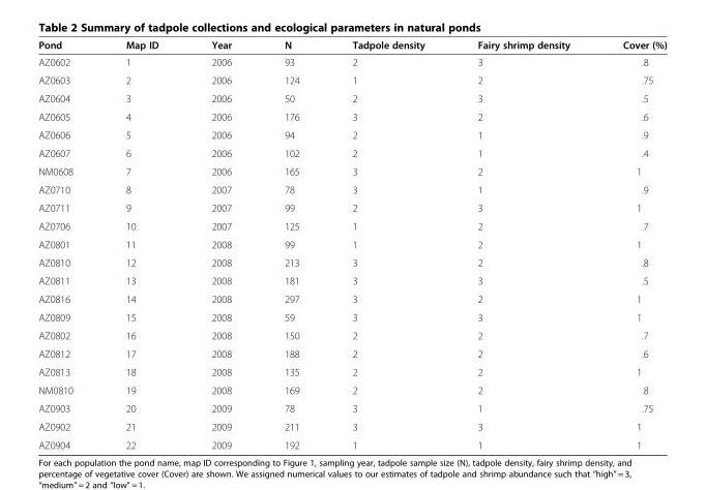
<table><thead><tr><td>Pond</td><td>Map ID</td><td>Year</td><td>N</td><td>Tadpole density</td><td>Fairy shrimp density</td><td>Cover (%)</td></tr></thead><tbody><tr><td>AZ0602</td><td>1</td><td>2006</td><td>93</td><td>2</td><td>3</td><td>.8</td></tr><tr><td>AZ0603</td><td>2</td><td>2006</td><td>124</td><td>1</td><td>2</td><td>.75</td></tr><tr><td>AZ0604</td><td>3</td><td>2006</td><td>50</td><td>2</td><td>3</td><td>.5</td></tr><tr><td>AZ0605</td><td>4</td><td>2006</td><td>176</td><td>3</td><td>2</td><td>.6</td></tr><tr><td>AZ0606</td><td>5</td><td>2006</td><td>94</td><td>2</td><td>1</td><td>.9</td></tr><tr><td>AZ0607</td><td>6</td><td>2006</td><td>102</td><td>2</td><td>1</td><td>.4</td></tr><tr><td>NM0608</td><td>7</td><td>2006</td><td>165</td><td>3</td><td>2</td><td>1</td></tr><tr><td>AZ0710</td><td>8</td><td>2007</td><td>78</td><td>3</td><td>1</td><td>.9</td></tr><tr><td>AZ0711</td><td>9</td><td>2007</td><td>99</td><td>2</td><td>3</td><td>1</td></tr><tr><td>AZ0706</td><td>10</td><td>2007</td><td>125</td><td>1</td><td>2</td><td>.7</td></tr><tr><td>AZ0801</td><td>11</td><td>2008</td><td>99</td><td>1</td><td>2</td><td>1</td></tr><tr><td>AZ0810</td><td>12</td><td>2008</td><td>213</td><td>3</td><td>2</td><td>.8</td></tr><tr><td>AZ0811</td><td>13</td><td>2008</td><td>181</td><td>3</td><td>3</td><td>.5</td></tr><tr><td>AZ0816</td><td>14</td><td>2008</td><td>297</td><td>3</td><td>2</td><td>1</td></tr><tr><td>AZ0809</td><td>15</td><td>2008</td><td>59</td><td>3</td><td>3</td><td>1</td></tr><tr><td>AZ0802</td><td>16</td><td>2008</td><td>150</td><td>2</td><td>2</td><td>.7</td></tr><tr><td>AZ0812</td><td>17</td><td>2008</td><td>188</td><td>2</td><td>2</td><td>.6</td></tr><tr><td>AZ0813</td><td>18</td><td>2008</td><td>135</td><td>2</td><td>2</td><td>1</td></tr><tr><td>NM0810</td><td>19</td><td>2008</td><td>169</td><td>2</td><td>2</td><td>.8</td></tr><tr><td>AZ0903</td><td>20</td><td>2009</td><td>78</td><td>3</td><td>1</td><td>.75</td></tr><tr><td>AZ0902</td><td>21</td><td>2009</td><td>211</td><td>3</td><td>3</td><td>1</td></tr><tr><td>AZ0904</td><td>22</td><td>2009</td><td>192</td><td>1</td><td>1</td><td>1</td></tr></tbody></table>